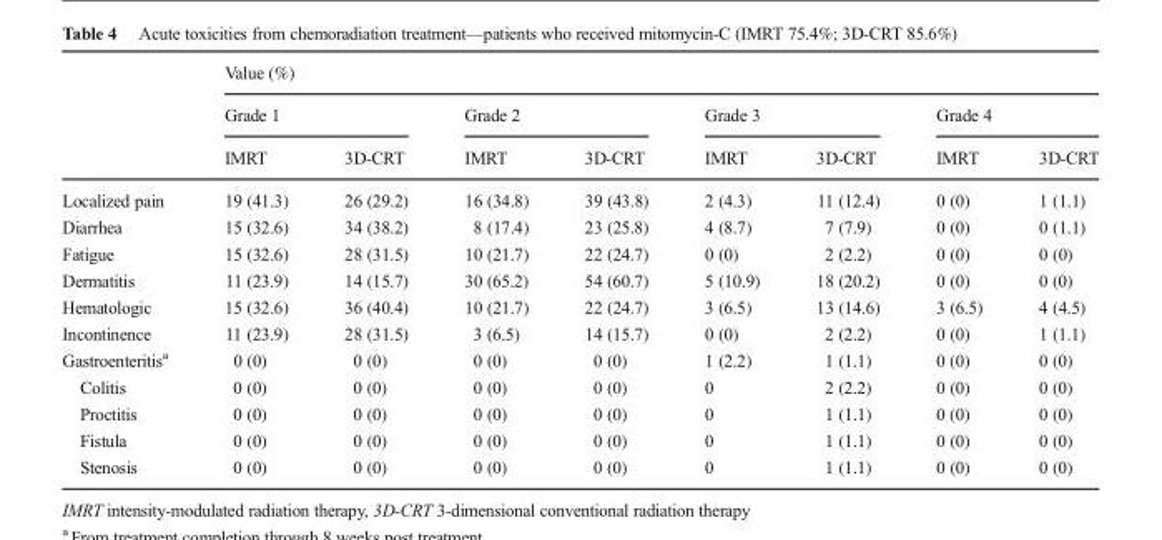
<table><thead><tr><td rowspan="3"></td><td colspan="8">Value (%)</td></tr><tr><td colspan="2">Grade 1</td><td colspan="2">Grade 2</td><td colspan="2">Grade 3</td><td colspan="2">Grade 4</td></tr><tr><td>IMRT</td><td>3D-CRT</td><td>IMRT</td><td>3D-CRT</td><td>IMRT</td><td>3D-CRT</td><td>IMRT</td><td>3D-CRT</td></tr></thead><tbody><tr><td>Localized pain</td><td>19 (41.3)</td><td>26 (29.2)</td><td>16 (34.8)</td><td>39 (43.8)</td><td>2 (4.3)</td><td>11 (12.4)</td><td>0 (0)</td><td>1 (1.1)</td></tr><tr><td>Diarrhea</td><td>15 (32.6)</td><td>34 (38.2)</td><td>8 (17.4)</td><td>23 (25.8)</td><td>4 (8.7)</td><td>7 (7.9)</td><td>0 (0)</td><td>0 (1.1)</td></tr><tr><td>Fatigue</td><td>15 (32.6)</td><td>28 (31.5)</td><td>10 (21.7)</td><td>22 (24.7)</td><td>0 (0)</td><td>2 (2.2)</td><td>0 (0)</td><td>0 (0)</td></tr><tr><td>Dermatitis</td><td>11 (23.9)</td><td>14 (15.7)</td><td>30 (65.2)</td><td>54 (60.7)</td><td>5 (10.9)</td><td>18 (20.2)</td><td>0 (0)</td><td>0 (0)</td></tr><tr><td>Hematologic</td><td>15 (32.6)</td><td>36 (40.4)</td><td>10 (21.7)</td><td>22 (24.7)</td><td>3 (6.5)</td><td>13 (14.6)</td><td>3 (6.5)</td><td>4 (4.5)</td></tr><tr><td>Incontinence</td><td>11 (23.9)</td><td>28 (31.5)</td><td>3 (6.5)</td><td>14 (15.7)</td><td>0 (0)</td><td>2 (2.2)</td><td>0 (0)</td><td>1 (1.1)</td></tr><tr><td>Gastroenteritis<sup>a</sup></td><td>0 (0)</td><td>0 (0)</td><td>0 (0)</td><td>0 (0)</td><td>1 (2.2)</td><td>1 (1.1)</td><td>0 (0)</td><td>0 (0)</td></tr><tr><td>Colitis</td><td>0 (0)</td><td>0 (0)</td><td>0 (0)</td><td>0 (0)</td><td>0</td><td>2 (2.2)</td><td>0 (0)</td><td>0 (0)</td></tr><tr><td>Proctitis</td><td>0 (0)</td><td>0 (0)</td><td>0 (0)</td><td>0 (0)</td><td>0</td><td>1 (1.1)</td><td>0 (0)</td><td>0 (0)</td></tr><tr><td>Fistula</td><td>0 (0)</td><td>0 (0)</td><td>0 (0)</td><td>0 (0)</td><td>0</td><td>1 (1.1)</td><td>0 (0)</td><td>0 (0)</td></tr><tr><td>Stenosis</td><td>0 (0)</td><td>0 (0)</td><td>0 (0)</td><td>0 (0)</td><td>0</td><td>1 (1.1)</td><td>0 (0)</td><td>0 (0)</td></tr></tbody></table>